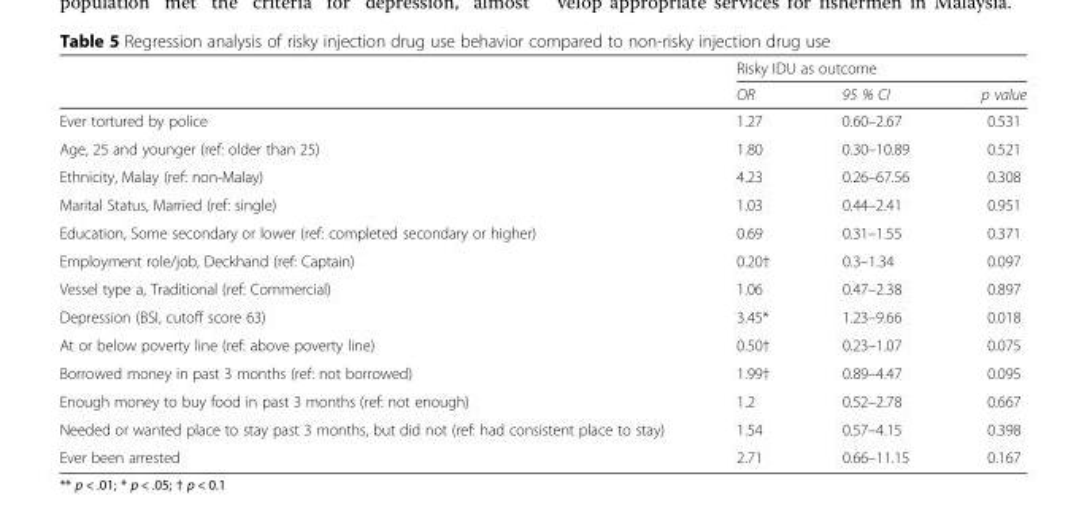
<table><thead><tr><td rowspan="2"></td><td colspan="3">Risky IDU as outcome</td></tr><tr><td>OR</td><td>95 % CI</td><td>p value</td></tr></thead><tbody><tr><td>Ever tortured by police</td><td>1.27</td><td>0.60–2.67</td><td>0.531</td></tr><tr><td>Age, 25 and younger (ref: older than 25)</td><td>1.80</td><td>0.30–10.89</td><td>0.521</td></tr><tr><td>Ethnicity, Malay (ref: non-Malay)</td><td>4.23</td><td>0.26–67.56</td><td>0.308</td></tr><tr><td>Marital Status, Married (ref: single)</td><td>1.03</td><td>0.44–2.41</td><td>0.951</td></tr><tr><td>Education, Some secondary or lower (ref: completed secondary or higher)</td><td>0.69</td><td>0.31–1.55</td><td>0.371</td></tr><tr><td>Employment role/job, Deckhand (ref: Captain)</td><td>0.20†</td><td>0.3–1.34</td><td>0.097</td></tr><tr><td>Vessel type a, Traditional (ref: Commercial)</td><td>1.06</td><td>0.47–2.38</td><td>0.897</td></tr><tr><td>Depression (BSI, cutoff score 63)</td><td>3.45*</td><td>1.23–9.66</td><td>0.018</td></tr><tr><td>At or below poverty line (ref: above poverty line)</td><td>0.50†</td><td>0.23–1.07</td><td>0.075</td></tr><tr><td>Borrowed money in past 3 months (ref: not borrowed)</td><td>1.99†</td><td>0.89–4.47</td><td>0.095</td></tr><tr><td>Enough money to buy food in past 3 months (ref: not enough)</td><td>1.2</td><td>0.52–2.78</td><td>0.667</td></tr><tr><td>Needed or wanted place to stay past 3 months, but did not (ref: had consistent place to stay)</td><td>1.54</td><td>0.57–4.15</td><td>0.398</td></tr><tr><td>Ever been arrested</td><td>2.71</td><td>0.66–11.15</td><td>0.167</td></tr></tbody></table>